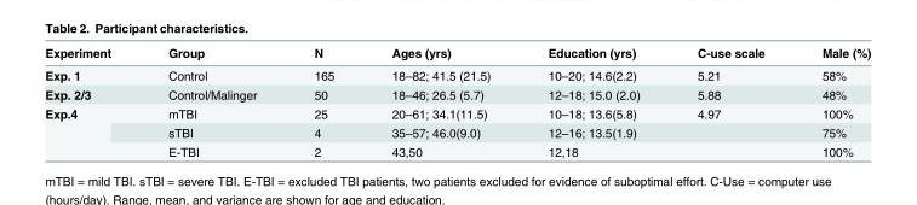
<table><thead><tr><td>Experiment</td><td>Group</td><td>N</td><td>Ages (yrs)</td><td>Education (yrs)</td><td>C-use scale</td><td>Male (%)</td></tr></thead><tbody><tr><td>Exp. 1</td><td>Control</td><td>165</td><td>18–82; 41.5 (21.5)</td><td>10–20; 14.6(2.2)</td><td>5.21</td><td>58%</td></tr><tr><td>Exp. 2/3</td><td>Control/Malinger</td><td>50</td><td>18–46; 26.5 (5.7)</td><td>12–18; 15.0 (2.0)</td><td>5.88</td><td>48%</td></tr><tr><td rowspan="3">Exp.4</td><td>mTBI</td><td>25</td><td>20–61; 34.1(11.5)</td><td>10–18; 13.6(5.8)</td><td>4.97</td><td>100%</td></tr><tr><td>sTBI</td><td>4</td><td>35–57; 46.0(9.0)</td><td>12–16; 13.5(1.9)</td><td></td><td>75%</td></tr><tr><td>E-TBI</td><td>2</td><td>43,50</td><td>12,18</td><td></td><td>100%</td></tr></tbody></table>